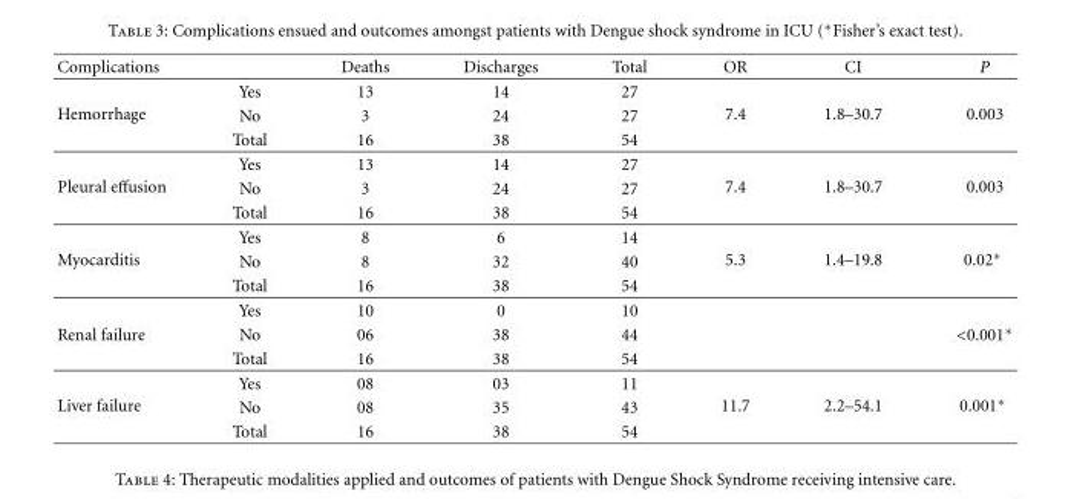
<table><thead><tr><td>Complications</td><td></td><td>Deaths</td><td>Discharges</td><td>Total</td><td>OR</td><td>CI</td><td>P</td></tr></thead><tbody><tr><td rowspan="3">Hemorrhage</td><td>Yes</td><td>13</td><td>14</td><td>27</td><td rowspan="3">7.4</td><td rowspan="3">1.8–30.7</td><td rowspan="3">0.003</td></tr><tr><td>No</td><td>3</td><td>24</td><td>27</td></tr><tr><td>Total</td><td>16</td><td>38</td><td>54</td></tr><tr><td rowspan="3">Pleural effusion</td><td>Yes</td><td>13</td><td>14</td><td>27</td><td rowspan="3">7.4</td><td rowspan="3">1.8–30.7</td><td rowspan="3">0.003</td></tr><tr><td>No</td><td>3</td><td>24</td><td>27</td></tr><tr><td>Total</td><td>16</td><td>38</td><td>54</td></tr><tr><td rowspan="4">Myocarditis</td><td>Yes</td><td>8</td><td>6</td><td>14</td><td rowspan="3">5.3</td><td rowspan="3">1.4–19.8</td><td rowspan="3">0.02∗</td></tr><tr><td>No</td><td>8</td><td>32</td><td>40</td></tr><tr><td>Total</td><td>16</td><td>38</td><td>54</td></tr><tr><td>Yes</td><td>10</td><td>0</td><td>10</td><td></td><td></td><td></td></tr><tr><td rowspan="2">Renal failure</td><td>No</td><td>06</td><td>38</td><td>44</td><td></td><td></td><td>&lt;0.001∗</td></tr><tr><td>Total</td><td>16</td><td>38</td><td>54</td><td></td><td></td><td></td></tr><tr><td rowspan="3">Liver failure</td><td>Yes</td><td>08</td><td>03</td><td>11</td><td rowspan="3">11.7</td><td rowspan="3">2.2–54.1</td><td rowspan="3">0.001∗</td></tr><tr><td>No</td><td>08</td><td>35</td><td>43</td></tr><tr><td>Total</td><td>16</td><td>38</td><td>54</td></tr></tbody></table>